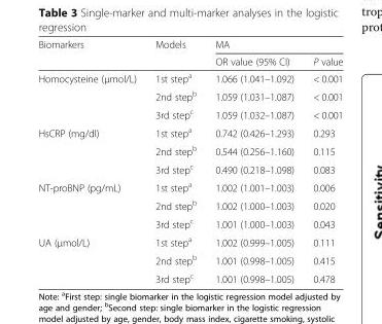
<table><thead><tr><td rowspan="2">Biomarkers</td><td rowspan="2">Models</td><td colspan="2">MA</td></tr><tr><td>OR value (95% CI)</td><td>P value</td></tr></thead><tbody><tr><td rowspan="3">Homocysteine (μmol/L)</td><td>1st step<sup>a</sup></td><td>1.066 (1.041–1.092)</td><td>&lt; 0.001</td></tr><tr><td>2nd step<sup>b</sup></td><td>1.059 (1.031–1.087)</td><td>&lt; 0.001</td></tr><tr><td>3rd step<sup>c</sup></td><td>1.059 (1.032–1.087)</td><td>&lt; 0.001</td></tr><tr><td rowspan="3">HsCRP (mg/dl)</td><td>1st step<sup>a</sup></td><td>0.742 (0.426–1.293)</td><td>0.293</td></tr><tr><td>2nd step<sup>b</sup></td><td>0.544 (0.256–1.160)</td><td>0.115</td></tr><tr><td>3rd step<sup>c</sup></td><td>0.490 (0.218–1.098)</td><td>0.083</td></tr><tr><td rowspan="3">NT-proBNP (pg/mL)</td><td>1st step<sup>a</sup></td><td>1.002 (1.001–1.003)</td><td>0.006</td></tr><tr><td>2nd step<sup>b</sup></td><td>1.002 (1.000–1.003)</td><td>0.020</td></tr><tr><td>3rd step<sup>c</sup></td><td>1.001 (1.000–1.003)</td><td>0.043</td></tr><tr><td rowspan="3">UA (μmol/L)</td><td>1st step<sup>a</sup></td><td>1.002 (0.999–1.005)</td><td>0.111</td></tr><tr><td>2nd step<sup>b</sup></td><td>1.001 (0.998–1.005)</td><td>0.415</td></tr><tr><td>3rd step<sup>c</sup></td><td>1.001 (0.998–1.005)</td><td>0.478</td></tr></tbody></table>